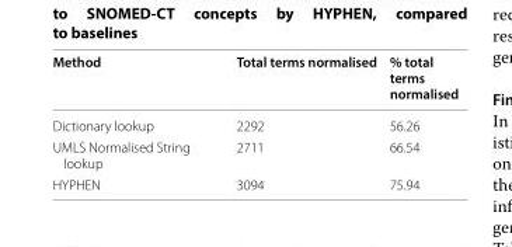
<table><thead><tr><td>Method</td><td>Total terms normalised</td><td>% total terms normalised</td></tr></thead><tbody><tr><td>Dictionary lookup</td><td>2292</td><td>56.26</td></tr><tr><td>UMLS Normalised String lookup</td><td>2711</td><td>66.54</td></tr><tr><td>HYPHEN</td><td>3094</td><td>75.94</td></tr></tbody></table>